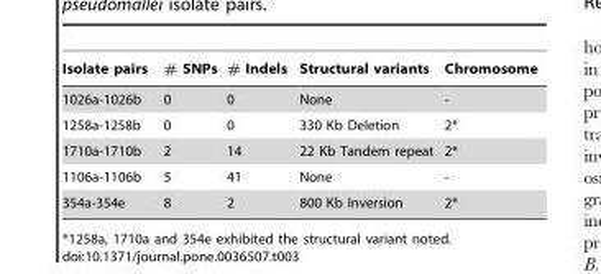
<table><thead><tr><td>Isolate pairs</td><td># SNPs</td><td># Indels</td><td>Structural variants</td><td>Chromosome</td></tr></thead><tbody><tr><td>1026a-1026b</td><td>0</td><td>0</td><td>None</td><td>-</td></tr><tr><td>1258a-1258b</td><td>0</td><td>0</td><td>330 Kb Deletion</td><td>2*</td></tr><tr><td>1710a-1710b</td><td>2</td><td>14</td><td>22 Kb Tandem repeat</td><td>2*</td></tr><tr><td>1106a-1106b</td><td>5</td><td>41</td><td>None</td><td>-</td></tr><tr><td>354a-354e</td><td>8</td><td>2</td><td>800 Kb Inversion</td><td>2*</td></tr></tbody></table>